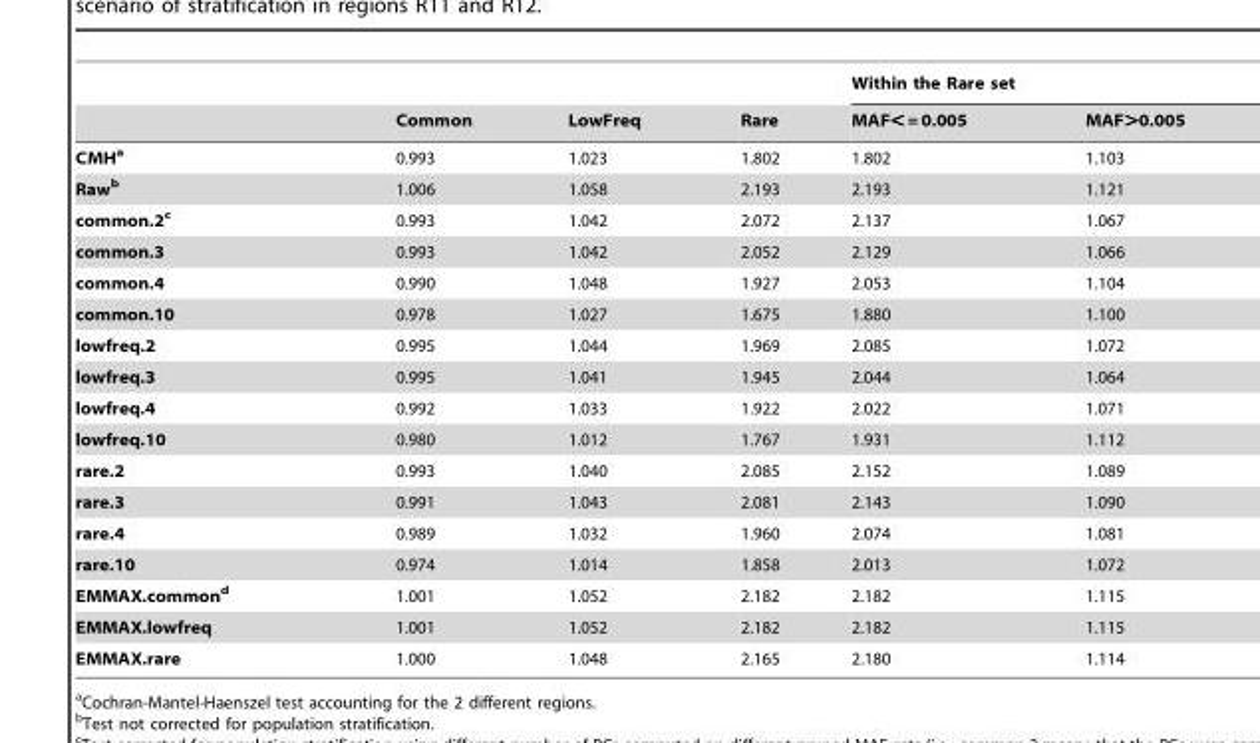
<table><thead><tr><td rowspan="2"></td><td rowspan="2">Common</td><td rowspan="2">LowFreq</td><td rowspan="2">Rare</td><td colspan="2">Within the Rare set</td></tr><tr><td>MAF&lt; = 0.005</td><td>MAF&gt;0.005</td></tr></thead><tbody><tr><td>CMHa</td><td>0.993</td><td>1.023</td><td>1.802</td><td>1.802</td><td>1.103</td></tr><tr><td>Rawb</td><td>1.006</td><td>1.058</td><td>2.193</td><td>2.193</td><td>1.121</td></tr><tr><td>common.2c</td><td>0.993</td><td>1.042</td><td>2.072</td><td>2.137</td><td>1.067</td></tr><tr><td>common.3</td><td>0.993</td><td>1.042</td><td>2.052</td><td>2.129</td><td>1.066</td></tr><tr><td>common.4</td><td>0.990</td><td>1.048</td><td>1.927</td><td>2.053</td><td>1.104</td></tr><tr><td>common.10</td><td>0.978</td><td>1.027</td><td>1.675</td><td>1.880</td><td>1.100</td></tr><tr><td>lowfreq.2</td><td>0.995</td><td>1.044</td><td>1.969</td><td>2.085</td><td>1.072</td></tr><tr><td>lowfreq.3</td><td>0.995</td><td>1.041</td><td>1.945</td><td>2.044</td><td>1.064</td></tr><tr><td>lowfreq.4</td><td>0.992</td><td>1.033</td><td>1.922</td><td>2.022</td><td>1.071</td></tr><tr><td>lowfreq.10</td><td>0.980</td><td>1.012</td><td>1.767</td><td>1.931</td><td>1.112</td></tr><tr><td>rare.2</td><td>0.993</td><td>1.040</td><td>2.085</td><td>2.152</td><td>1.089</td></tr><tr><td>rare.3</td><td>0.991</td><td>1.043</td><td>2.081</td><td>2.143</td><td>1.090</td></tr><tr><td>rare.4</td><td>0.989</td><td>1.032</td><td>1.960</td><td>2.074</td><td>1.081</td></tr><tr><td>rare.10</td><td>0.974</td><td>1.014</td><td>1.858</td><td>2.013</td><td>1.072</td></tr><tr><td>EMMAX.commond</td><td>1.001</td><td>1.052</td><td>2.182</td><td>2.182</td><td>1.115</td></tr><tr><td>EMMAX.lowfreq</td><td>1.001</td><td>1.052</td><td>2.182</td><td>2.182</td><td>1.115</td></tr><tr><td>EMMAX.rare</td><td>1.000</td><td>1.048</td><td>2.165</td><td>2.180</td><td>1.114</td></tr></tbody></table>